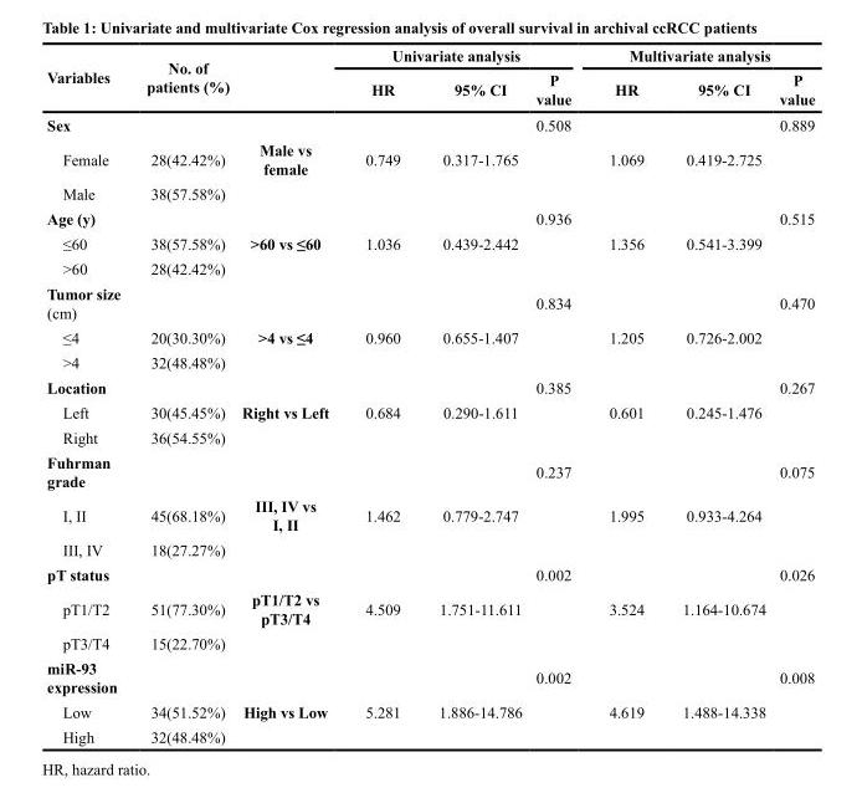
<table><thead><tr><td rowspan="2">Variables</td><td rowspan="2">No. of patients (%)</td><td rowspan="2"></td><td colspan="3">Univariate analysis</td><td colspan="3">Multivariate analysis</td></tr><tr><td>HR</td><td>95% CI</td><td>P value</td><td>HR</td><td>95% CI</td><td>P value</td></tr></thead><tbody><tr><td>Sex</td><td></td><td></td><td></td><td></td><td>0.508</td><td></td><td></td><td>0.889</td></tr><tr><td>Female</td><td>28(42.42%)</td><td>Male vs female</td><td>0.749</td><td>0.317-1.765</td><td></td><td>1.069</td><td>0.419-2.725</td><td></td></tr><tr><td>Male</td><td>38(57.58%)</td><td></td><td></td><td></td><td></td><td></td><td></td><td></td></tr><tr><td>Age (y)</td><td></td><td></td><td></td><td></td><td>0.936</td><td></td><td></td><td>0.515</td></tr><tr><td>≤60</td><td>38(57.58%)</td><td>&gt;60 vs ≤60</td><td>1.036</td><td>0.439-2.442</td><td></td><td>1.356</td><td>0.541-3.399</td><td></td></tr><tr><td>&gt;60</td><td>28(42.42%)</td><td></td><td></td><td></td><td></td><td></td><td></td><td></td></tr><tr><td>Tumor size (cm)</td><td></td><td></td><td></td><td></td><td>0.834</td><td></td><td></td><td>0.470</td></tr><tr><td>≤4</td><td>20(30.30%)</td><td>&gt;4 vs ≤4</td><td>0.960</td><td>0.655-1.407</td><td></td><td>1.205</td><td>0.726-2.002</td><td></td></tr><tr><td>&gt;4</td><td>32(48.48%)</td><td></td><td></td><td></td><td></td><td></td><td></td><td></td></tr><tr><td>Location</td><td></td><td></td><td></td><td></td><td>0.385</td><td></td><td></td><td>0.267</td></tr><tr><td>Left</td><td>30(45.45%)</td><td>Right vs Left</td><td>0.684</td><td>0.290-1.611</td><td></td><td>0.601</td><td>0.245-1.476</td><td></td></tr><tr><td>Right</td><td>36(54.55%)</td><td></td><td></td><td></td><td></td><td></td><td></td><td></td></tr><tr><td>Fuhrman grade</td><td></td><td></td><td></td><td></td><td>0.237</td><td></td><td></td><td>0.075</td></tr><tr><td>I, II</td><td>45(68.18%)</td><td>III, IV vs I, II</td><td>1.462</td><td>0.779-2.747</td><td></td><td>1.995</td><td>0.933-4.264</td><td></td></tr><tr><td>III, IV</td><td>18(27.27%)</td><td></td><td></td><td></td><td></td><td></td><td></td><td></td></tr><tr><td>pT status</td><td></td><td></td><td></td><td></td><td>0.002</td><td></td><td></td><td>0.026</td></tr><tr><td>pT1/T2</td><td>51(77.30%)</td><td>pT1/T2 vs pT3/T4</td><td>4.509</td><td>1.751-11.611</td><td></td><td>3.524</td><td>1.164-10.674</td><td></td></tr><tr><td>pT3/T4</td><td>15(22.70%)</td><td></td><td></td><td></td><td></td><td></td><td></td><td></td></tr><tr><td>miR-93 expression</td><td></td><td></td><td></td><td></td><td>0.002</td><td></td><td></td><td>0.008</td></tr><tr><td>Low</td><td>34(51.52%)</td><td>High vs Low</td><td>5.281</td><td>1.886-14.786</td><td></td><td>4.619</td><td>1.488-14.338</td><td></td></tr><tr><td>High</td><td>32(48.48%)</td><td></td><td></td><td></td><td></td><td></td><td></td><td></td></tr></tbody></table>